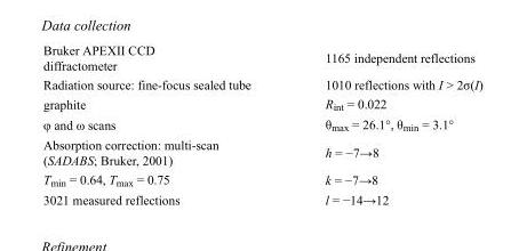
<table><tbody><tr><td>Bruker APEXII CCD diffractometer</td><td>1165 independent reflections</td></tr><tr><td>Radiation source: fine-focus sealed tube</td><td>1010 reflections with I &gt; 2σ(I)</td></tr><tr><td>graphite</td><td>R<sub>int</sub> = 0.022</td></tr><tr><td>φ and ω scans</td><td>θ<sub>max</sub> = 26.1°, θ<sub>min</sub> = 3.1°</td></tr><tr><td>Absorption correction: multi-scan (SADABS; Bruker, 2001)</td><td>h = −7→8</td></tr><tr><td>T<sub>min</sub> = 0.64, T<sub>max</sub> = 0.75</td><td>k = −7→8</td></tr><tr><td>3021 measured reflections</td><td>l = −14→12</td></tr></tbody></table>